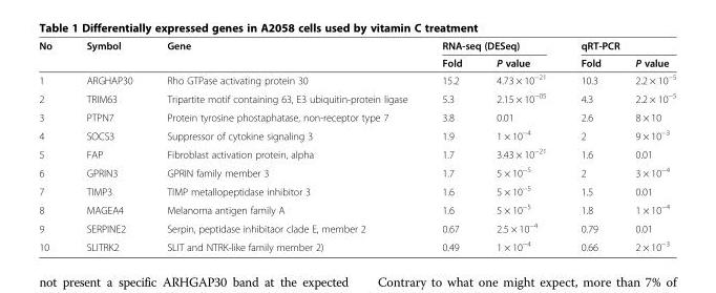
<table><thead><tr><td rowspan="2">No</td><td rowspan="2">Symbol</td><td rowspan="2">Gene</td><td colspan="2">RNA-seq (DESeq)</td><td colspan="2">qRT-PCR</td></tr><tr><td>Fold</td><td>P value</td><td>Fold</td><td>P value</td></tr></thead><tbody><tr><td>1</td><td>ARGHAP30</td><td>Rho GTPase activating protein 30</td><td>15.2</td><td>4.73 × 10<sup>−21</sup></td><td>10.3</td><td>2.2 × 10<sup>−5</sup></td></tr><tr><td>2</td><td>TRIM63</td><td>Tripartite motif containing 63, E3 ubiquitin-protein ligase</td><td>5.3</td><td>2.15 × 10<sup>−05</sup></td><td>4.3</td><td>2.2 × 10<sup>−5</sup></td></tr><tr><td>3</td><td>PTPN7</td><td>Protein tyrosine phostaphatase, non-receptor type 7</td><td>3.8</td><td>0.01</td><td>2.6</td><td>8 × 10</td></tr><tr><td>4</td><td>SOCS3</td><td>Suppressor of cytokine signaling 3</td><td>1.9</td><td>1 × 10<sup>−4</sup></td><td>2</td><td>9 × 10<sup>−3</sup></td></tr><tr><td>5</td><td>FAP</td><td>Fibroblast activation protein, alpha</td><td>1.7</td><td>3.43 × 10<sup>−21</sup></td><td>1.6</td><td>0.01</td></tr><tr><td>6</td><td>GPRIN3</td><td>GPRIN family member 3</td><td>1.7</td><td>5 × 10<sup>−5</sup></td><td>2</td><td>3 × 10<sup>−4</sup></td></tr><tr><td>7</td><td>TIMP3</td><td>TIMP metallopeptidase inhibitor 3</td><td>1.6</td><td>5 × 10<sup>−5</sup></td><td>1.5</td><td>0.01</td></tr><tr><td>8</td><td>MAGEA4</td><td>Melanoma antigen family A</td><td>1.6</td><td>5 × 10<sup>−5</sup></td><td>1.8</td><td>1 × 10<sup>−4</sup></td></tr><tr><td>9</td><td>SERPINE2</td><td>Serpin, peptidase inhibitaor clade E, member 2</td><td>0.67</td><td>2.5 × 10<sup>−4</sup></td><td>0.79</td><td>0.01</td></tr><tr><td>10</td><td>SLITRK2</td><td>SLIT and NTRK-like family member 2)</td><td>0.49</td><td>1 × 10<sup>−4</sup></td><td>0.66</td><td>2 × 10<sup>−3</sup></td></tr></tbody></table>